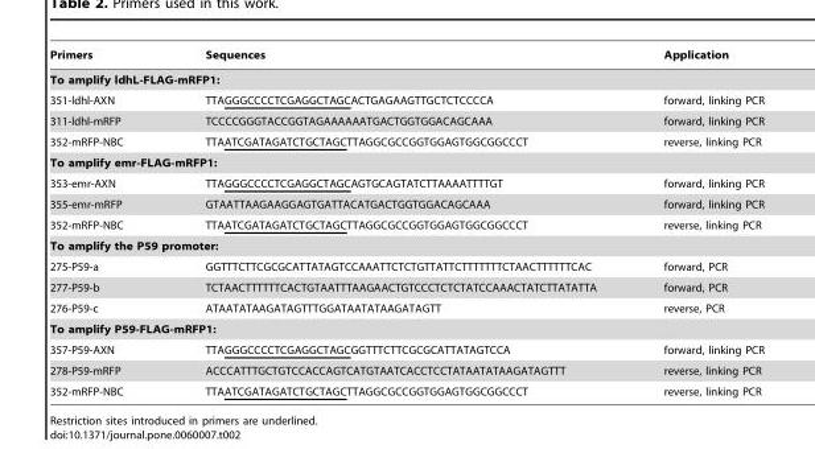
<table><thead><tr><td>Primers</td><td>Sequences</td><td>Application</td></tr></thead><tbody><tr><td colspan="3">To amplify ldhL-FLAG-mRFP1:</td></tr><tr><td>351-ldhl-AXN</td><td>TTAGGGCCCCTCGAGGCTAGCACTGAGAAGTTGCTCTCCCCA</td><td>forward, linking PCR</td></tr><tr><td>311-ldhl-mRFP</td><td>TCCCCGGGTACCGGTAGAAAAAATGACTGGTGGACAGCAAA</td><td>forward, linking PCR</td></tr><tr><td>352-mRFP-NBC</td><td>TTAATCGATAGATCTGCTAGCTTAGGCGCCGGTGGAGTGGCGGCCCT</td><td>reverse, linking PCR</td></tr><tr><td colspan="3">To amplify emr-FLAG-mRFP1:</td></tr><tr><td>353-emr-AXN</td><td>TTAGGGCCCCTCGAGGCTAGCAGTGCAGTATCTTAAAATTTTGT</td><td>forward, linking PCR</td></tr><tr><td>355-emr-mRFP</td><td>GTAATTAAGAAGGAGTGATTACATGACTGGTGGACAGCAAA</td><td>forward, linking PCR</td></tr><tr><td>352-mRFP-NBC</td><td>TTAATCGATAGATCTGCTAGCTTAGGCGCCGGTGGAGTGGCGGCCCT</td><td>reverse, linking PCR</td></tr><tr><td colspan="3">To amplify the P59 promoter:</td></tr><tr><td>275-P59-a</td><td>GGTTTCTTCGCGCATTATAGTCCAAATTCTCTGTTATTCTTTTTTTCTAACTTTTTTCAC</td><td>forward, PCR</td></tr><tr><td>277-P59-b</td><td>TCTAACTTTTTTCACTGTAATTTAAGAACTGTCCCTCTCTATCCAAACTATCTTATATTA</td><td>forward, PCR</td></tr><tr><td>276-P59-c</td><td>ATAATATAAGATAGTTTGGATAATATAAGATAGTT</td><td>reverse, PCR</td></tr><tr><td colspan="3">To amplify P59-FLAG-mRFP1:</td></tr><tr><td>357-P59-AXN</td><td>TTAGGGCCCCTCGAGGCTAGCGGTTTCTTCGCGCATTATAGTCCA</td><td>forward, linking PCR</td></tr><tr><td>278-P59-mRFP</td><td>ACCCATTTGCTGTCCACCAGTCATGTAATCACCTCCTATAATATAAGATAGTTT</td><td>reverse, linking PCR</td></tr><tr><td>352-mRFP-NBC</td><td>TTAATCGATAGATCTGCTAGCTTAGGCGCCGGTGGAGTGGCGGCCCT</td><td>reverse, linking PCR</td></tr></tbody></table>